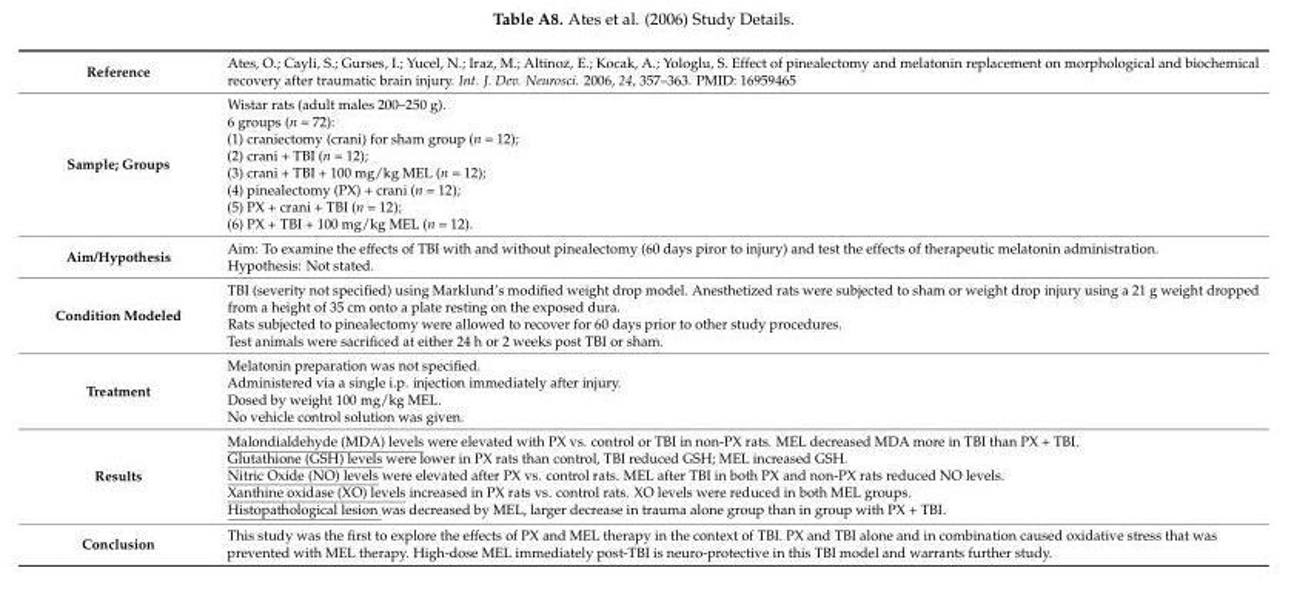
<table><tbody><tr><td>Reference</td><td>Ates, O.; Cayli, S.; Gurses, I.; Yucel, N.; Iraz, M.; Altinoz, E.; Kocak, A.; Yologlu, S. Effect of pinealectomy and melatonin replacement on morphological and biochemical recovery after traumatic brain injury. Int. J. Dev. Neurosci. 2006, 24, 357–363. PMID: 16959465</td></tr><tr><td>Sample; Groups</td><td>Wistar rats (adult males 200–250 g). 6 groups (n = 72): (1) craniectomy (crani) for sham group (n = 12); (2) crani + TBI (n = 12); (3) crani + TBI + 100 mg/kg MEL (n = 12); (4) pinealectomy (PX) + crani (n = 12); (5) PX + crani + TBI (n = 12); (6) PX + TBI + 100 mg/kg MEL (n = 12).</td></tr><tr><td>Aim/Hypothesis</td><td>Aim: To examine the effects of TBI with and without pinealectomy (60 days piror to injury) and test the effects of therapeutic melatonin administration. Hypothesis: Not stated.</td></tr><tr><td>Condition Modeled</td><td>TBI (severity not specified) using Marklund’s modified weight drop model. Anesthetized rats were subjected to sham or weight drop injury using a 21 g weight dropped from a height of 35 cm onto a plate resting on the exposed dura. Rats subjected to pinealectomy were allowed to recover for 60 days prior to other study procedures. Test animals were sacrificed at either 24 h or 2 weeks post TBI or sham.</td></tr><tr><td>Treatment</td><td>Melatonin preparation was not specified. Administered via a single i.p. injection immediately after injury. Dosed by weight 100 mg/kg MEL. No vehicle control solution was given.</td></tr><tr><td>Results</td><td>Malondialdehyde (MDA) levels were elevated with PX vs. control or TBI in non-PX rats. MEL decreased MDA more in TBI than PX + TBI. Glutathione (GSH) levels were lower in PX rats than control, TBI reduced GSH; MEL increased GSH. Nitric Oxide (NO) levels were elevated after PX vs. control rats. MEL after TBI in both PX and non-PX rats reduced NO levels. Xanthine oxidase (XO) levels increased in PX rats vs. control rats. XO levels were reduced in both MEL groups. Histopathological lesion was decreased by MEL, larger decrease in trauma alone group than in group with PX + TBI.</td></tr><tr><td>Conclusion</td><td>This study was the first to explore the effects of PX and MEL therapy in the context of TBI. PX and TBI alone and in combination caused oxidative stress that was prevented with MEL therapy. High-dose MEL immediately post-TBI is neuro-protective in this TBI model and warrants further study.</td></tr></tbody></table>